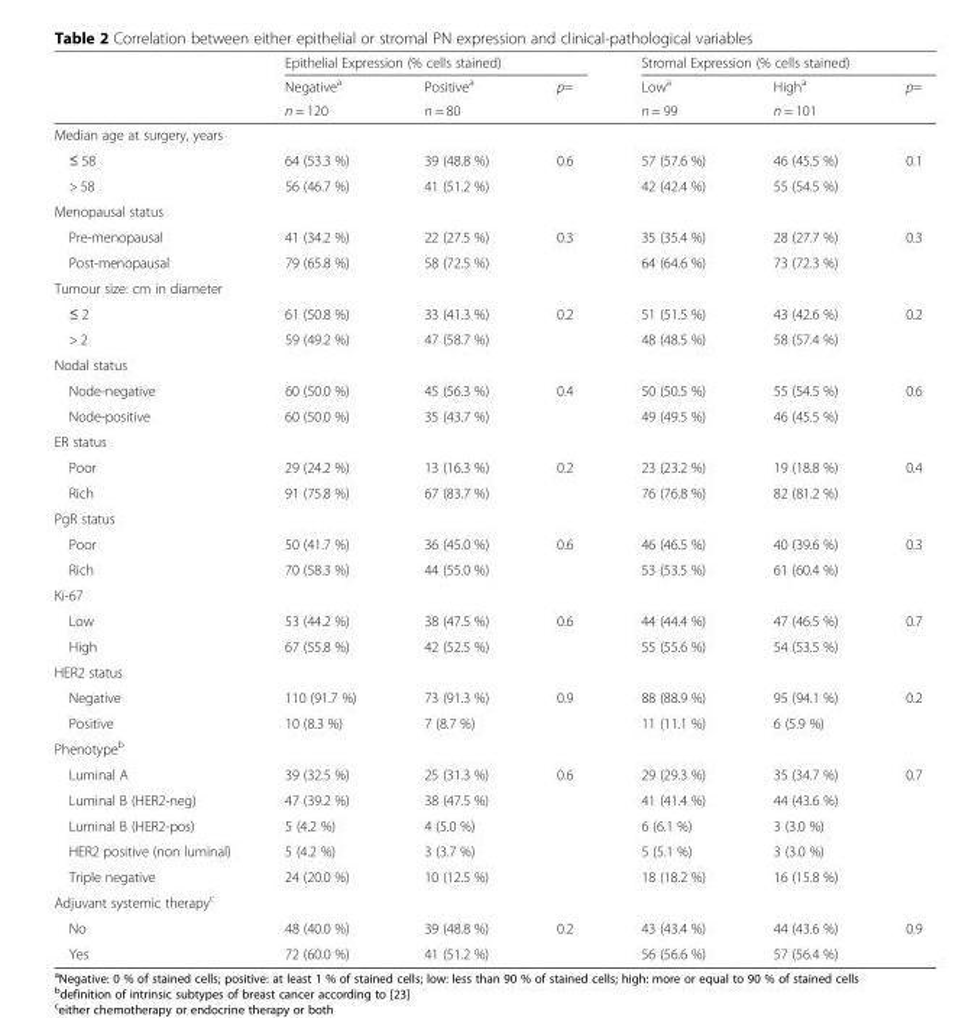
<table><thead><tr><td rowspan="3"></td><td colspan="3">Epithelial Expression (% cells stained)</td><td colspan="3">Stromal Expression (% cells stained)</td></tr><tr><td rowspan="2">Negative<sup>a</sup> n = 120</td><td rowspan="2">Positive<sup>a</sup> n = 80</td><td rowspan="2">p=</td><td rowspan="2">Low<sup>a</sup> n = 99</td><td rowspan="2">High<sup>a</sup> n = 101</td><td rowspan="2">p=</td></tr><tr></tr></thead><tbody><tr><td colspan="7">Median age at surgery, years</td></tr><tr><td>≤ 58</td><td>64 (53.3 %)</td><td>39 (48.8 %)</td><td rowspan="2">0.6</td><td>57 (57.6 %)</td><td>46 (45.5 %)</td><td rowspan="2">0.1</td></tr><tr><td>&gt; 58</td><td>56 (46.7 %)</td><td>41 (51.2 %)</td><td>42 (42.4 %)</td><td>55 (54.5 %)</td></tr><tr><td colspan="7">Menopausal status</td></tr><tr><td>Pre-menopausal</td><td>41 (34.2 %)</td><td>22 (27.5 %)</td><td rowspan="2">0.3</td><td>35 (35.4 %)</td><td>28 (27.7 %)</td><td rowspan="2">0.3</td></tr><tr><td>Post-menopausal</td><td>79 (65.8 %)</td><td>58 (72.5 %)</td><td>64 (64.6 %)</td><td>73 (72.3 %)</td></tr><tr><td colspan="7">Tumour size: cm in diameter</td></tr><tr><td>≤ 2</td><td>61 (50.8 %)</td><td>33 (41.3 %)</td><td rowspan="2">0.2</td><td>51 (51.5 %)</td><td>43 (42.6 %)</td><td rowspan="2">0.2</td></tr><tr><td>&gt; 2</td><td>59 (49.2 %)</td><td>47 (58.7 %)</td><td>48 (48.5 %)</td><td>58 (57.4 %)</td></tr><tr><td colspan="7">Nodal status</td></tr><tr><td>Node-negative</td><td>60 (50.0 %)</td><td>45 (56.3 %)</td><td rowspan="2">0.4</td><td>50 (50.5 %)</td><td>55 (54.5 %)</td><td rowspan="2">0.6</td></tr><tr><td>Node-positive</td><td>60 (50.0 %)</td><td>35 (43.7 %)</td><td>49 (49.5 %)</td><td>46 (45.5 %)</td></tr><tr><td colspan="7">ER status</td></tr><tr><td>Poor</td><td>29 (24.2 %)</td><td>13 (16.3 %)</td><td rowspan="2">0.2</td><td>23 (23.2 %)</td><td>19 (18.8 %)</td><td rowspan="2">0.4</td></tr><tr><td>Rich</td><td>91 (75.8 %)</td><td>67 (83.7 %)</td><td>76 (76.8 %)</td><td>82 (81.2 %)</td></tr><tr><td colspan="7">PgR status</td></tr><tr><td>Poor</td><td>50 (41.7 %)</td><td>36 (45.0 %)</td><td rowspan="2">0.6</td><td>46 (46.5 %)</td><td>40 (39.6 %)</td><td rowspan="2">0.3</td></tr><tr><td>Rich</td><td>70 (58.3 %)</td><td>44 (55.0 %)</td><td>53 (53.5 %)</td><td>61 (60.4 %)</td></tr><tr><td colspan="7">Ki-67</td></tr><tr><td>Low</td><td>53 (44.2 %)</td><td>38 (47.5 %)</td><td rowspan="2">0.6</td><td>44 (44.4 %)</td><td>47 (46.5 %)</td><td rowspan="2">0.7</td></tr><tr><td>High</td><td>67 (55.8 %)</td><td>42 (52.5 %)</td><td>55 (55.6 %)</td><td>54 (53.5 %)</td></tr><tr><td colspan="7">HER2 status</td></tr><tr><td>Negative</td><td>110 (91.7 %)</td><td>73 (91.3 %)</td><td rowspan="2">0.9</td><td>88 (88.9 %)</td><td>95 (94.1 %)</td><td rowspan="2">0.2</td></tr><tr><td>Positive</td><td>10 (8.3 %)</td><td>7 (8.7 %)</td><td>11 (11.1 %)</td><td>6 (5.9 %)</td></tr><tr><td colspan="7">Phenotype<sup>b</sup></td></tr><tr><td>Luminal A</td><td>39 (32.5 %)</td><td>25 (31.3 %)</td><td rowspan="5">0.6</td><td>29 (29.3 %)</td><td>35 (34.7 %)</td><td rowspan="5">0.7</td></tr><tr><td>Luminal B (HER2-neg)</td><td>47 (39.2 %)</td><td>38 (47.5 %)</td><td>41 (41.4 %)</td><td>44 (43.6 %)</td></tr><tr><td>Luminal B (HER2-pos)</td><td>5 (4.2 %)</td><td>4 (5.0 %)</td><td>6 (6.1 %)</td><td>3 (3.0 %)</td></tr><tr><td>HER2 positive (non luminal)</td><td>5 (4.2 %)</td><td>3 (3.7 %)</td><td>5 (5.1 %)</td><td>3 (3.0 %)</td></tr><tr><td>Triple negative</td><td>24 (20.0 %)</td><td>10 (12.5 %)</td><td>18 (18.2 %)</td><td>16 (15.8 %)</td></tr><tr><td colspan="7">Adjuvant systemic therapy<sup>c</sup></td></tr><tr><td>No</td><td>48 (40.0 %)</td><td>39 (48.8 %)</td><td rowspan="2">0.2</td><td>43 (43.4 %)</td><td>44 (43.6 %)</td><td rowspan="2">0.9</td></tr><tr><td>Yes</td><td>72 (60.0 %)</td><td>41 (51.2 %)</td><td>56 (56.6 %)</td><td>57 (56.4 %)</td></tr></tbody></table>